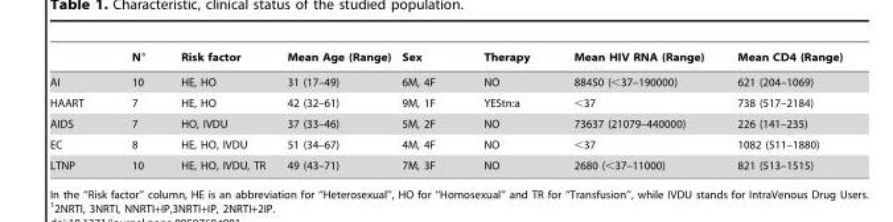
<table><thead><tr><td></td><td>N°</td><td>Risk factor</td><td>Mean Age (Range)</td><td>Sex</td><td>Therapy</td><td>Mean HIV RNA (Range)</td><td>Mean CD4 (Range)</td></tr></thead><tbody><tr><td>AI</td><td>10</td><td>HE, HO</td><td>31 (17–49)</td><td>6M, 4F</td><td>NO</td><td>88450 (&lt;37–190000)</td><td>621 (204–1069)</td></tr><tr><td>HAART</td><td>7</td><td>HE, HO</td><td>42 (32–61)</td><td>9M, 1F</td><td>YEStn:a</td><td>&lt;37</td><td>738 (517–2184)</td></tr><tr><td>AIDS</td><td>7</td><td>HO, IVDU</td><td>37 (33–46)</td><td>5M, 2F</td><td>NO</td><td>73637 (21079–440000)</td><td>226 (141–235)</td></tr><tr><td>EC</td><td>8</td><td>HE, HO, IVDU</td><td>51 (34–67)</td><td>4M, 4F</td><td>NO</td><td>&lt;37</td><td>1082 (511–1880)</td></tr><tr><td>LTNP</td><td>10</td><td>HE, HO, IVDU, TR</td><td>49 (43–71)</td><td>7M, 3F</td><td>NO</td><td>2680 (&lt;37–11000)</td><td>821 (513–1515)</td></tr></tbody></table>